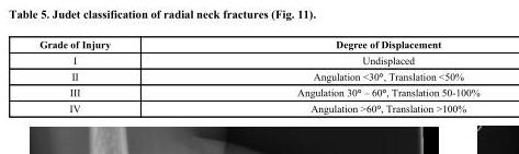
<table><thead><tr><td>Grade of Injury</td><td>Degree of Displacement</td></tr></thead><tbody><tr><td>I</td><td>Undisplaced</td></tr><tr><td>II</td><td>Angulation &lt;30°, Translation &lt;50%</td></tr><tr><td>III</td><td>Angulation 30° – 60°, Translation 50-100%</td></tr><tr><td>IV</td><td>Angulation &gt;60°, Translation &gt;100%</td></tr></tbody></table>